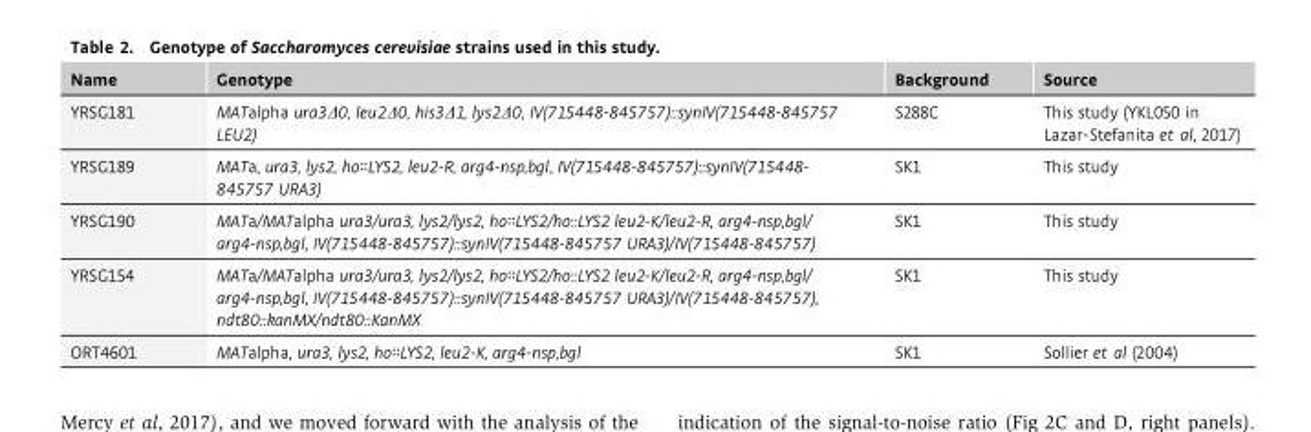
<table><thead><tr><td>Name</td><td>Genotype</td><td>Background</td><td>Source</td></tr></thead><tbody><tr><td>YRSG181</td><td>MATalpha ura3Δ0, leu2Δ0, his3Δ1, lys2Δ0, IV(715448-845757)::synIV(715448-845757 LEU2)</td><td>S288C</td><td>This study (YKL050 in Lazar-Stefanita et al, 2017)</td></tr><tr><td>YRSG189</td><td>MATa, ura3, lys2, ho∷LYS2, leu2-R, arg4-nsp,bgl, IV(715448-845757)::synIV(715448- 845757 URA3)</td><td>SK1</td><td>This study</td></tr><tr><td>YRSG190</td><td>MATa/MATalpha ura3/ura3, lys2/lys2, ho∷LYS2/ho::LYS2 leu2-K/leu2-R, arg4-nsp,bgl/ arg4-nsp,bgl, IV(715448-845757)::synIV(715448-845757 URA3)/IV(715448-845757)</td><td>SK1</td><td>This study</td></tr><tr><td>YRSG154</td><td>MATa/MATalpha ura3/ura3, lys2/lys2, ho∷LYS2/ho::LYS2 leu2-K/leu2-R, arg4-nsp,bgl/ arg4-nsp,bgl, IV(715448-845757)::synIV(715448-845757 URA3)/IV(715448-845757), ndt80::kanMX/ndt80::KanMX</td><td>SK1</td><td>This study</td></tr><tr><td>ORT4601</td><td>MATalpha, ura3, lys2, ho∷LYS2, leu2-K, arg4-nsp,bgl</td><td>SK1</td><td>Sollier et al (2004)</td></tr></tbody></table>